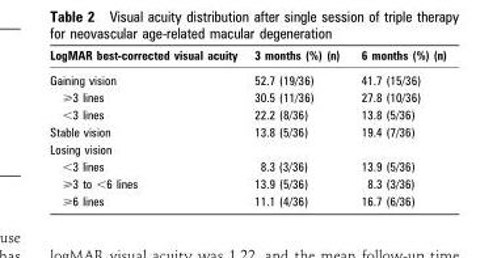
<table><thead><tr><td>LogMAR best-corrected visual acuity</td><td>3 months (%) (n)</td><td>6 months (%) (n)</td></tr></thead><tbody><tr><td>Gaining vision</td><td>52.7 (19/36)</td><td>41.7 (15/36)</td></tr><tr><td>&gt;3 lines</td><td>30.5 (11/36)</td><td>27.8 (10/36)</td></tr><tr><td>&lt;3 lines</td><td>22.2 (8/36)</td><td>13.8 (5/36)</td></tr><tr><td>Stable vision</td><td>13.8 (5/36)</td><td>19.4 (7/36)</td></tr><tr><td colspan="3">Losing vision</td></tr><tr><td>&lt;3 lines</td><td>8.3 (3/36)</td><td>13.9 (5/36)</td></tr><tr><td>&gt;3 to ,6 lines</td><td>13.9 (5/36)</td><td>8.3 (3/36)</td></tr><tr><td>&gt;6 lines</td><td>11.1 (4/36)</td><td>16.7 (6/36)</td></tr></tbody></table>